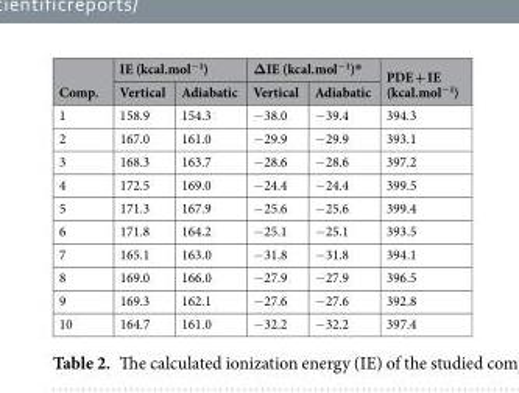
<table><thead><tr><td rowspan="2">Comp.</td><td colspan="2">IE (kcal.mol<sup>−1</sup>)</td><td colspan="2">ΔIE (kcal.mol<sup>−1</sup>)*</td><td rowspan="2">PDE + IE (kcal.mol<sup>−1</sup>)</td></tr><tr><td>Vertical</td><td>Adiabatic</td><td>Vertical</td><td>Adiabatic</td></tr></thead><tbody><tr><td>1</td><td>158.9</td><td>154.3</td><td>−38.0</td><td>−39.4</td><td>394.3</td></tr><tr><td>2</td><td>167.0</td><td>161.0</td><td>−29.9</td><td>−29.9</td><td>393.1</td></tr><tr><td>3</td><td>168.3</td><td>163.7</td><td>−28.6</td><td>−28.6</td><td>397.2</td></tr><tr><td>4</td><td>172.5</td><td>169.0</td><td>−24.4</td><td>−24.4</td><td>399.5</td></tr><tr><td>5</td><td>171.3</td><td>167.9</td><td>−25.6</td><td>−25.6</td><td>399.4</td></tr><tr><td>6</td><td>171.8</td><td>164.2</td><td>−25.1</td><td>−25.1</td><td>393.5</td></tr><tr><td>7</td><td>165.1</td><td>163.0</td><td>−31.8</td><td>−31.8</td><td>394.1</td></tr><tr><td>8</td><td>169.0</td><td>166.0</td><td>−27.9</td><td>−27.9</td><td>396.5</td></tr><tr><td>9</td><td>169.3</td><td>162.1</td><td>−27.6</td><td>−27.6</td><td>392.8</td></tr><tr><td>10</td><td>164.7</td><td>161.0</td><td>−32.2</td><td>−32.2</td><td>397.4</td></tr></tbody></table>